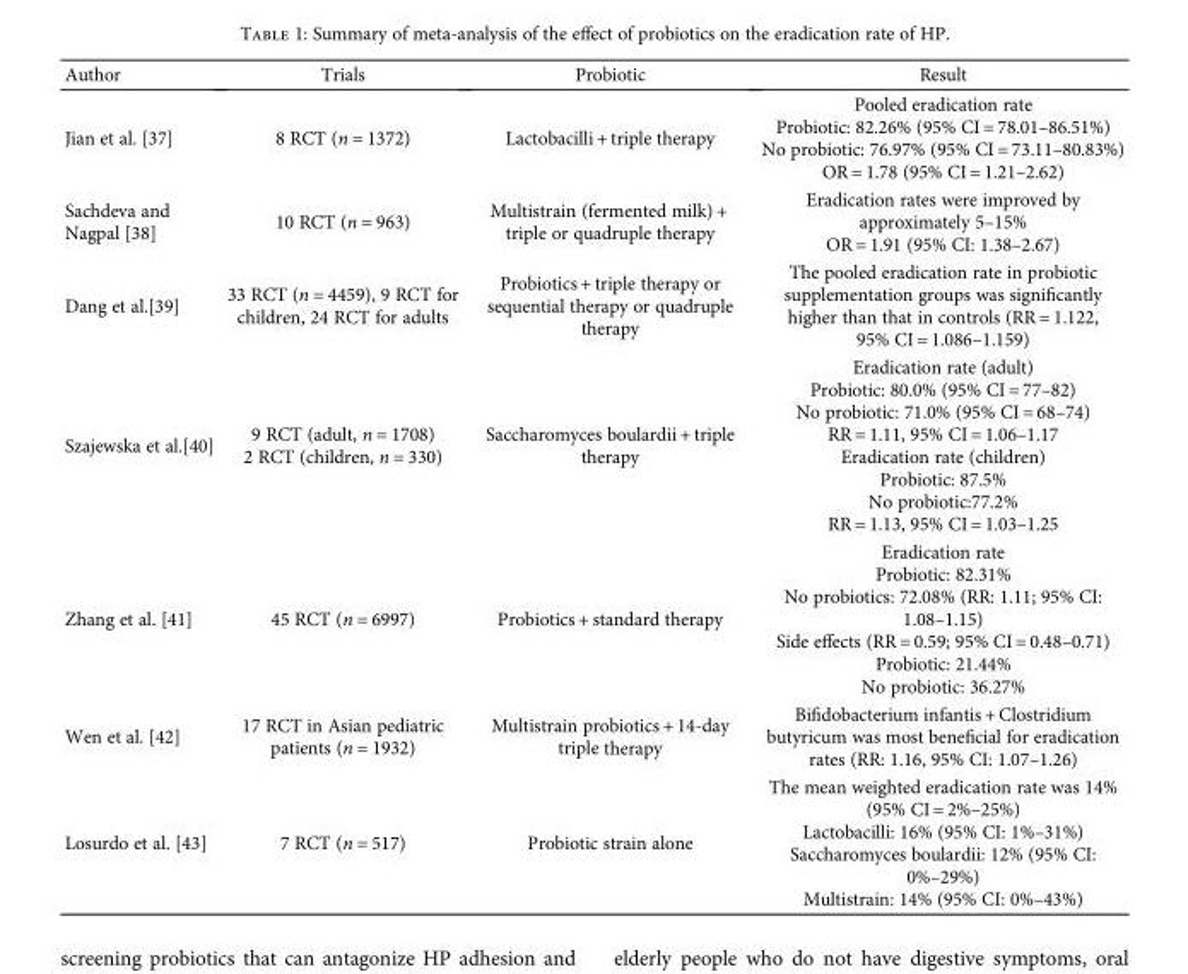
<table><thead><tr><td>Author</td><td>Trials</td><td>Probiotic</td><td>Result</td></tr></thead><tbody><tr><td>Jian et al. [37]</td><td>8 RCT (n = 1372)</td><td>Lactobacilli + triple therapy</td><td>Pooled eradication rate Probiotic: 82.26% (95% CI = 78.01–86.51%) No probiotic: 76.97% (95% CI = 73.11–80.83%) OR = 1.78 (95% CI = 1.21–2.62)</td></tr><tr><td>Sachdeva and Nagpal [38]</td><td>10 RCT (n = 963)</td><td>Multistrain (fermented milk) + triple or quadruple therapy</td><td>Eradication rates were improved by approximately 5–15% OR = 1.91 (95% CI: 1.38–2.67)</td></tr><tr><td>Dang et al.[39]</td><td>33 RCT (n = 4459), 9 RCT for children, 24 RCT for adults</td><td>Probiotics + triple therapy or sequential therapy or quadruple therapy</td><td>The pooled eradication rate in probiotic supplementation groups was significantly higher than that in controls (RR = 1.122, 95% CI = 1.086–1.159)</td></tr><tr><td>Szajewska et al.[40]</td><td>9 RCT (adult, n = 1708) 2 RCT (children, n = 330)</td><td>Saccharomyces boulardii + triple therapy</td><td>Eradication rate (adult) Probiotic: 80.0% (95% CI = 77–82) No probiotic: 71.0% (95% CI = 68–74) RR = 1.11, 95% CI = 1.06–1.17 Eradication rate (children) Probiotic: 87.5% No probiotic:77.2% RR = 1.13, 95% CI = 1.03–1.25</td></tr><tr><td>Zhang et al. [41]</td><td>45 RCT (n = 6997)</td><td>Probiotics + standard therapy</td><td>Eradication rate Probiotic: 82.31% No probiotics: 72.08% (RR: 1.11; 95% CI: 1.08–1.15) Side effects (RR = 0.59; 95% CI = 0.48–0.71) Probiotic: 21.44% No probiotic: 36.27%</td></tr><tr><td>Wen et al. [42]</td><td>17 RCT in Asian pediatric patients (n = 1932)</td><td>Multistrain probiotics + 14-day triple therapy</td><td>Bifidobacterium infantis + Clostridium butyricum was most beneficial for eradication rates (RR: 1.16, 95% CI: 1.07–1.26)</td></tr><tr><td>Losurdo et al. [43]</td><td>7 RCT (n = 517)</td><td>Probiotic strain alone</td><td>The mean weighted eradication rate was 14% (95% CI = 2%–25%) Lactobacilli: 16% (95% CI: 1%–31%) Saccharomyces boulardii: 12% (95% CI: 0%–29%) Multistrain: 14% (95% CI: 0%–43%)</td></tr></tbody></table>